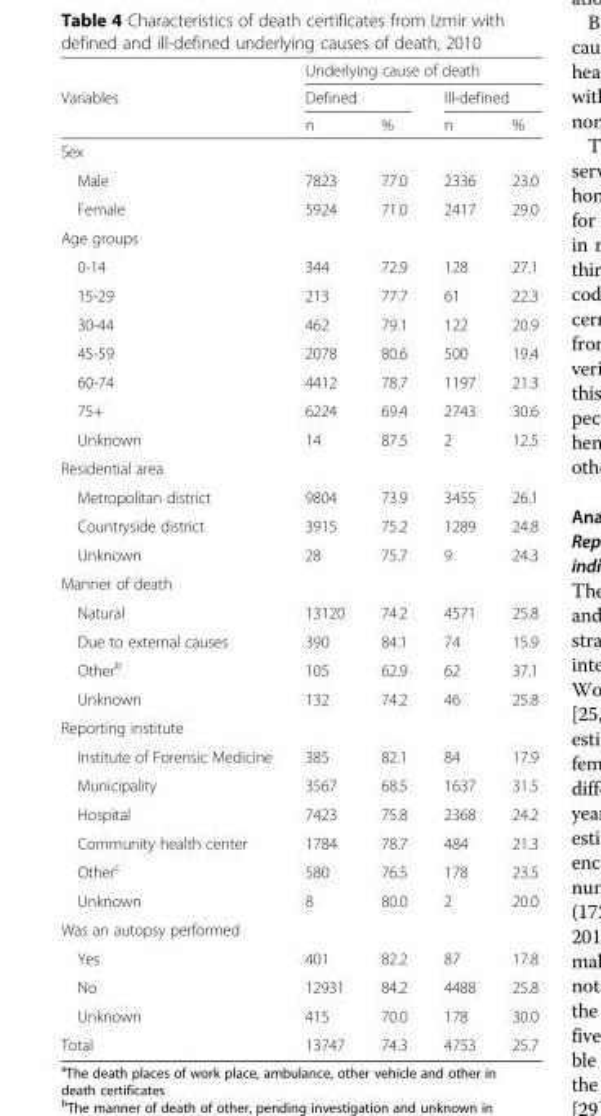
<table><thead><tr><td rowspan="3">Variables</td><td colspan="4">Underlying cause of death</td></tr><tr><td colspan="2">Defined</td><td colspan="2">Ill-defined</td></tr><tr><td>n</td><td>%</td><td>n</td><td>%</td></tr></thead><tbody><tr><td colspan="5">Sex</td></tr><tr><td>Male</td><td>7823</td><td>77.0</td><td>2336</td><td>23.0</td></tr><tr><td>Female</td><td>5924</td><td>71.0</td><td>2417</td><td>29.0</td></tr><tr><td colspan="5">Age groups</td></tr><tr><td>0-14</td><td>344</td><td>72.9</td><td>128</td><td>27.1</td></tr><tr><td>15-29</td><td>213</td><td>77.7</td><td>61</td><td>22.3</td></tr><tr><td>30-44</td><td>462</td><td>79.1</td><td>122</td><td>20.9</td></tr><tr><td>45-59</td><td>2078</td><td>80.6</td><td>500</td><td>19.4</td></tr><tr><td>60-74</td><td>4412</td><td>78.7</td><td>1197</td><td>21.3</td></tr><tr><td>75+</td><td>6224</td><td>69.4</td><td>2743</td><td>30.6</td></tr><tr><td>Unknown</td><td>14</td><td>87.5</td><td>2</td><td>12.5</td></tr><tr><td colspan="5">Residential area</td></tr><tr><td>Metropolitan district</td><td>9804</td><td>73.9</td><td>3455</td><td>26.1</td></tr><tr><td>Countryside district</td><td>3915</td><td>75.2</td><td>1289</td><td>24.8</td></tr><tr><td>Unknown</td><td>28</td><td>75.7</td><td>9</td><td>24.3</td></tr><tr><td colspan="5">Manner of death</td></tr><tr><td>Natural</td><td>13120</td><td>74.2</td><td>4571</td><td>25.8</td></tr><tr><td>Due to external causes</td><td>390</td><td>84.1</td><td>74</td><td>15.9</td></tr><tr><td>Other<sup>b</sup></td><td>105</td><td>62.9</td><td>62</td><td>37.1</td></tr><tr><td>Unknown</td><td>132</td><td>74.2</td><td>46</td><td>25.8</td></tr><tr><td colspan="5">Reporting institute</td></tr><tr><td>Institute of Forensic Medicine</td><td>385</td><td>82.1</td><td>84</td><td>17.9</td></tr><tr><td>Municipality</td><td>3567</td><td>68.5</td><td>1637</td><td>31.5</td></tr><tr><td>Hospital</td><td>7423</td><td>75.8</td><td>2368</td><td>24.2</td></tr><tr><td>Community health center</td><td>1784</td><td>78.7</td><td>484</td><td>21.3</td></tr><tr><td>Other<sup>c</sup></td><td>580</td><td>76.5</td><td>178</td><td>23.5</td></tr><tr><td>Unknown</td><td>8</td><td>80.0</td><td>2</td><td>20.0</td></tr><tr><td colspan="5">Was an autopsy performed</td></tr><tr><td>Yes</td><td>401</td><td>82.2</td><td>87</td><td>17.8</td></tr><tr><td>No</td><td>12931</td><td>84.2</td><td>4488</td><td>25.8</td></tr><tr><td>Unknown</td><td>415</td><td>70.0</td><td>178</td><td>30.0</td></tr><tr><td>Total</td><td>13747</td><td>74.3</td><td>4753</td><td>25.7</td></tr></tbody></table>